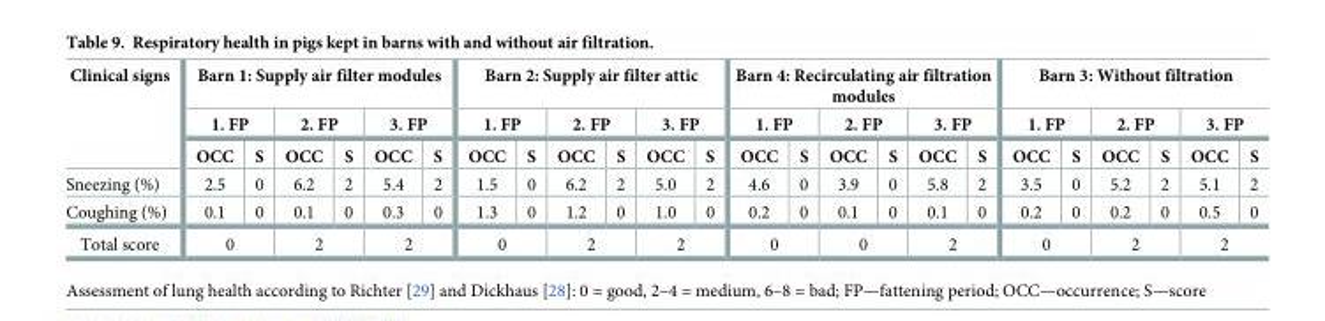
<table><thead><tr><td rowspan="3">Clinical signs</td><td colspan="6">Barn 1: Supply air filter modules</td><td colspan="6">Barn 2: Supply air filter attic</td><td colspan="6">Barn 4: Recirculating air filtration modules</td><td colspan="6">Barn 3: Without filtration</td></tr><tr><td colspan="2">1. FP</td><td colspan="2">2. FP</td><td colspan="2">3. FP</td><td colspan="2">1. FP</td><td colspan="2">2. FP</td><td colspan="2">3. FP</td><td colspan="2">1. FP</td><td colspan="2">2. FP</td><td colspan="2">3. FP</td><td colspan="2">1. FP</td><td colspan="2">2. FP</td><td colspan="2">3. FP</td></tr><tr><td>OCC</td><td>S</td><td>OCC</td><td>S</td><td>OCC</td><td>S</td><td>OCC</td><td>S</td><td>OCC</td><td>S</td><td>OCC</td><td>S</td><td>OCC</td><td>S</td><td>OCC</td><td>S</td><td>OCC</td><td>S</td><td>OCC</td><td>S</td><td>OCC</td><td>S</td><td>OCC</td><td>S</td></tr></thead><tbody><tr><td>Sneezing (%)</td><td>2.5</td><td>0</td><td>6.2</td><td>2</td><td>5.4</td><td>2</td><td>1.5</td><td>0</td><td>6.2</td><td>2</td><td>5.0</td><td>2</td><td>4.6</td><td>0</td><td>3.9</td><td>0</td><td>5.8</td><td>2</td><td>3.5</td><td>0</td><td>5.2</td><td>2</td><td>5.1</td><td>2</td></tr><tr><td>Coughing (%)</td><td>0.1</td><td>0</td><td>0.1</td><td>0</td><td>0.3</td><td>0</td><td>1.3</td><td>0</td><td>1.2</td><td>0</td><td>1.0</td><td>0</td><td>0.2</td><td>0</td><td>0.1</td><td>0</td><td>0.1</td><td>0</td><td>0.2</td><td>0</td><td>0.2</td><td>0</td><td>0.5</td><td>0</td></tr><tr><td>Total score</td><td colspan="2">0</td><td colspan="2">2</td><td colspan="2">2</td><td colspan="2">0</td><td colspan="2">2</td><td colspan="2">2</td><td colspan="2">0</td><td colspan="2">0</td><td colspan="2">2</td><td colspan="2">0</td><td colspan="2">2</td><td colspan="2">2</td></tr></tbody></table>